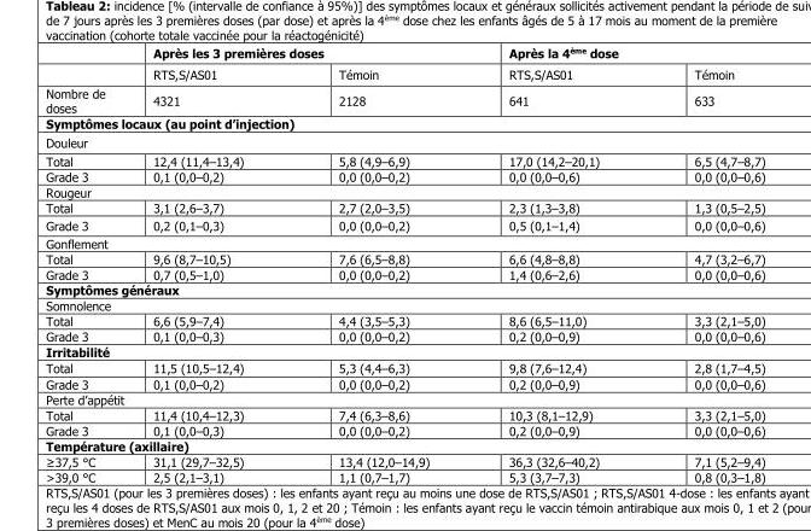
<table><thead><tr><td rowspan="2"></td><td colspan="2">Après les 3 premières doses</td><td colspan="2">Après la 4<sup>ème</sup> dose</td></tr><tr><td>RTS,S/AS01</td><td>Témoin</td><td>RTS,S/AS01</td><td>Témoin</td></tr></thead><tbody><tr><td>Nombre de doses</td><td>4321</td><td>2128</td><td>641</td><td>633</td></tr><tr><td colspan="5">Symptômes locaux (au point d’injection)</td></tr><tr><td colspan="5">Douleur</td></tr><tr><td>Total</td><td>12,4 (11,4–13,4)</td><td>5,8 (4,9–6,9)</td><td>17,0 (14,2–20,1)</td><td>6,5 (4,7–8,7)</td></tr><tr><td>Grade 3</td><td>0,1 (0,0–0,2)</td><td>0,0 (0,0–0,2)</td><td>0,0 (0,0–0,6)</td><td>0,0 (0,0–0,6)</td></tr><tr><td colspan="5">Rougeur</td></tr><tr><td>Total</td><td>3,1 (2,6–3,7)</td><td>2,7 (2,0–3,5)</td><td>2,3 (1,3–3,8)</td><td>1,3 (0,5–2,5)</td></tr><tr><td>Grade 3</td><td>0,2 (0,1–0,3)</td><td>0,0 (0,0–0,2)</td><td>0,5 (0,1–1,4)</td><td>0,0 (0,0–0,6)</td></tr><tr><td colspan="5">Gonflement</td></tr><tr><td>Total</td><td>9,6 (8,7–10,5)</td><td>7,6 (6,5–8,8)</td><td>6,6 (4,8–8,8)</td><td>4,7 (3,2–6,7)</td></tr><tr><td>Grade 3</td><td>0,7 (0,5–1,0)</td><td>0,0 (0,0–0,2)</td><td>1,4 (0,6–2,6)</td><td>0,0 (0,0–0,6)</td></tr><tr><td colspan="5">Symptômes généraux</td></tr><tr><td colspan="5">Somnolence</td></tr><tr><td>Total</td><td>6,6 (5,9–7,4)</td><td>4,4 (3,5–5,3)</td><td>8,6 (6,5–11,0)</td><td>3,3 (2,1–5,0)</td></tr><tr><td>Grade 3</td><td>0,1 (0,0–0,3)</td><td>0,0 (0,0–0,2)</td><td>0,2 (0,0–0,9)</td><td>0,0 (0,0–0,6)</td></tr><tr><td colspan="5">Irritabilité</td></tr><tr><td>Total</td><td>11,5 (10,5–12,4)</td><td>5,3 (4,4–6,3)</td><td>9,8 (7,6–12,4)</td><td>2,8 (1,7–4,5)</td></tr><tr><td>Grade 3</td><td>0,1 (0,0–0,2)</td><td>0,0 (0,0–0,2)</td><td>0,2 (0,0–0,9)</td><td>0,0 (0,0–0,6)</td></tr><tr><td colspan="5">Perte d’appétit</td></tr><tr><td>Total</td><td>11,4 (10,4–12,3)</td><td>7,4 (6,3–8,6)</td><td>10,3 (8,1–12,9)</td><td>3,3 (2,1–5,0)</td></tr><tr><td>Grade 3</td><td>0,1 (0,0–0,3)</td><td>0,0 (0,0–0,2)</td><td>0,2 (0,0–0,9)</td><td>0,0 (0,0–0,6)</td></tr><tr><td colspan="5">Température (axillaire)</td></tr><tr><td>≥37,5 °C</td><td>31,1 (29,7–32,5)</td><td>13,4 (12,0–14,9)</td><td>36,3 (32,6–40,2)</td><td>7,1 (5,2–9,4)</td></tr><tr><td>&gt;39,0 °C</td><td>2,5 (2,1–3,1)</td><td>1,1 (0,7–1,7)</td><td>5,3 (3,7–7,3)</td><td>0,8 (0,3–1,8)</td></tr></tbody></table>